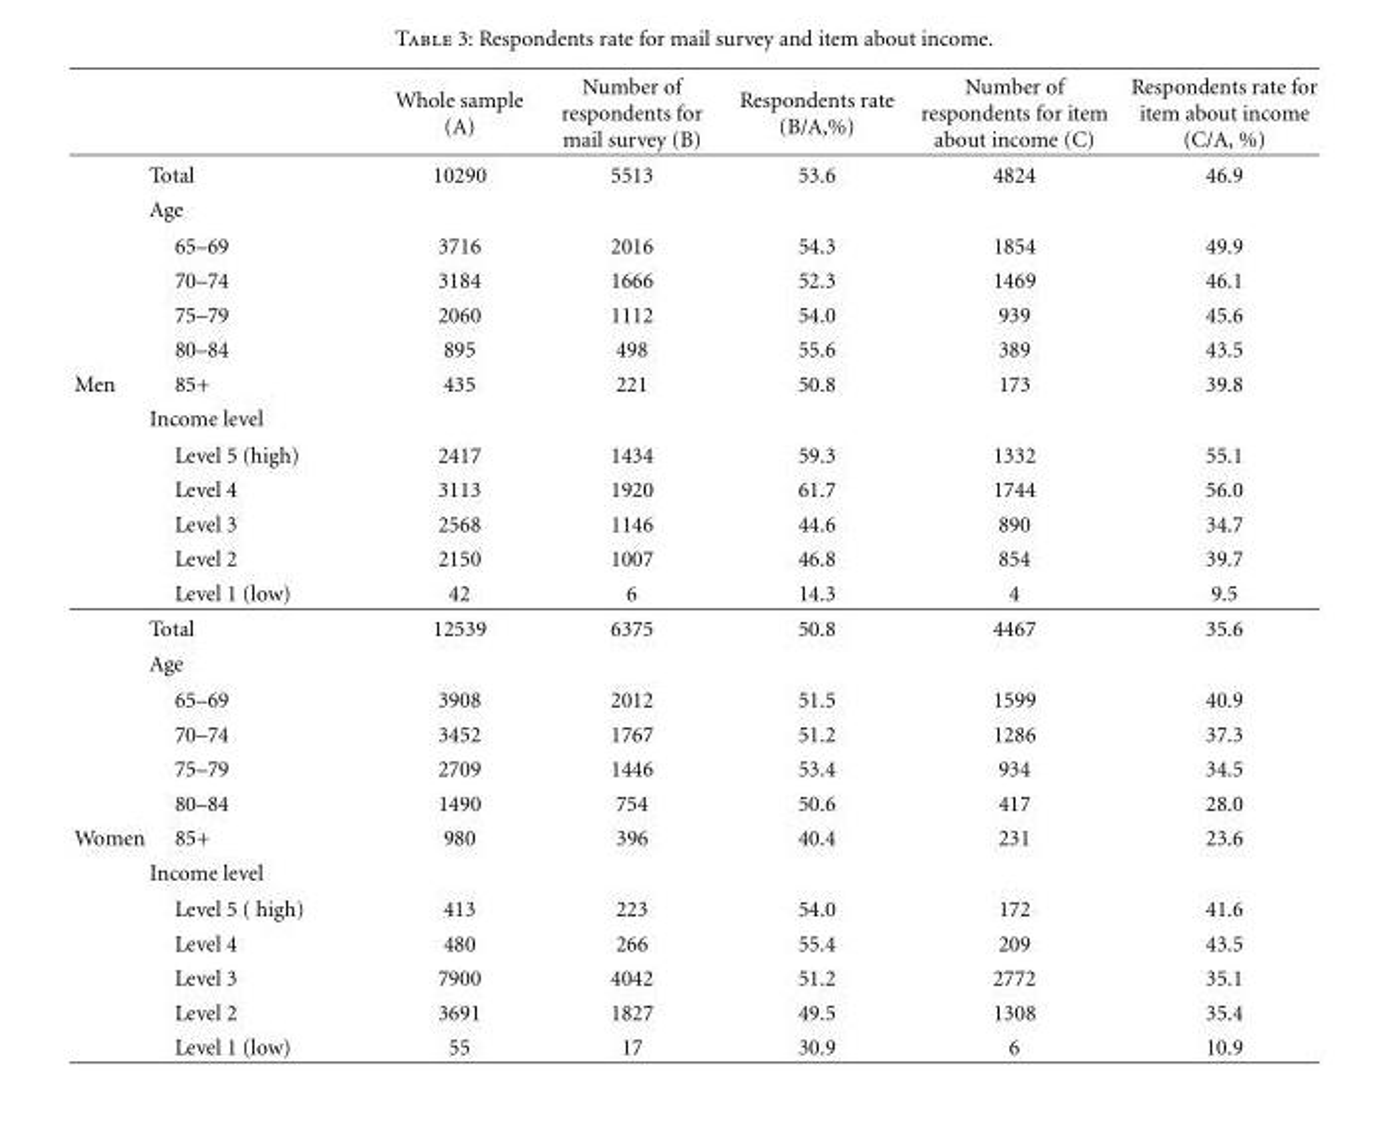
<table><thead><tr><td></td><td></td><td>Whole sample (A)</td><td>Number of respondents for mail survey (B)</td><td>Respondents rate (B/A,%)</td><td>Number of respondents for item about income (C)</td><td>Respondents rate for item about income (C/A, %)</td></tr></thead><tbody><tr><td></td><td>Total</td><td>10290</td><td>5513</td><td>53.6</td><td>4824</td><td>46.9</td></tr><tr><td></td><td>Age</td><td></td><td></td><td></td><td></td><td></td></tr><tr><td></td><td>65–69</td><td>3716</td><td>2016</td><td>54.3</td><td>1854</td><td>49.9</td></tr><tr><td></td><td>70–74</td><td>3184</td><td>1666</td><td>52.3</td><td>1469</td><td>46.1</td></tr><tr><td></td><td>75–79</td><td>2060</td><td>1112</td><td>54.0</td><td>939</td><td>45.6</td></tr><tr><td></td><td>80–84</td><td>895</td><td>498</td><td>55.6</td><td>389</td><td>43.5</td></tr><tr><td rowspan="13">Men</td><td>85+</td><td>435</td><td>221</td><td>50.8</td><td>173</td><td>39.8</td></tr><tr><td>Income level</td><td></td><td></td><td></td><td></td><td></td></tr><tr><td>Level 5 (high)</td><td>2417</td><td>1434</td><td>59.3</td><td>1332</td><td>55.1</td></tr><tr><td>Level 4</td><td>3113</td><td>1920</td><td>61.7</td><td>1744</td><td>56.0</td></tr><tr><td>Level 3</td><td>2568</td><td>1146</td><td>44.6</td><td>890</td><td>34.7</td></tr><tr><td>Level 2</td><td>2150</td><td>1007</td><td>46.8</td><td>854</td><td>39.7</td></tr><tr><td>Level 1 (low)</td><td>42</td><td>6</td><td>14.3</td><td>4</td><td>9.5</td></tr><tr><td>Total</td><td>12539</td><td>6375</td><td>50.8</td><td>4467</td><td>35.6</td></tr><tr><td>Age</td><td></td><td></td><td></td><td></td><td></td></tr><tr><td>65–69</td><td>3908</td><td>2012</td><td>51.5</td><td>1599</td><td>40.9</td></tr><tr><td>70–74</td><td>3452</td><td>1767</td><td>51.2</td><td>1286</td><td>37.3</td></tr><tr><td>75–79</td><td>2709</td><td>1446</td><td>53.4</td><td>934</td><td>34.5</td></tr><tr><td>80–84</td><td>1490</td><td>754</td><td>50.6</td><td>417</td><td>28.0</td></tr><tr><td rowspan="7">Women</td><td>85+</td><td>980</td><td>396</td><td>40.4</td><td>231</td><td>23.6</td></tr><tr><td>Income level</td><td></td><td></td><td></td><td></td><td></td></tr><tr><td>Level 5 ( high)</td><td>413</td><td>223</td><td>54.0</td><td>172</td><td>41.6</td></tr><tr><td>Level 4</td><td>480</td><td>266</td><td>55.4</td><td>209</td><td>43.5</td></tr><tr><td>Level 3</td><td>7900</td><td>4042</td><td>51.2</td><td>2772</td><td>35.1</td></tr><tr><td>Level 2</td><td>3691</td><td>1827</td><td>49.5</td><td>1308</td><td>35.4</td></tr><tr><td>Level 1 (low)</td><td>55</td><td>17</td><td>30.9</td><td>6</td><td>10.9</td></tr></tbody></table>